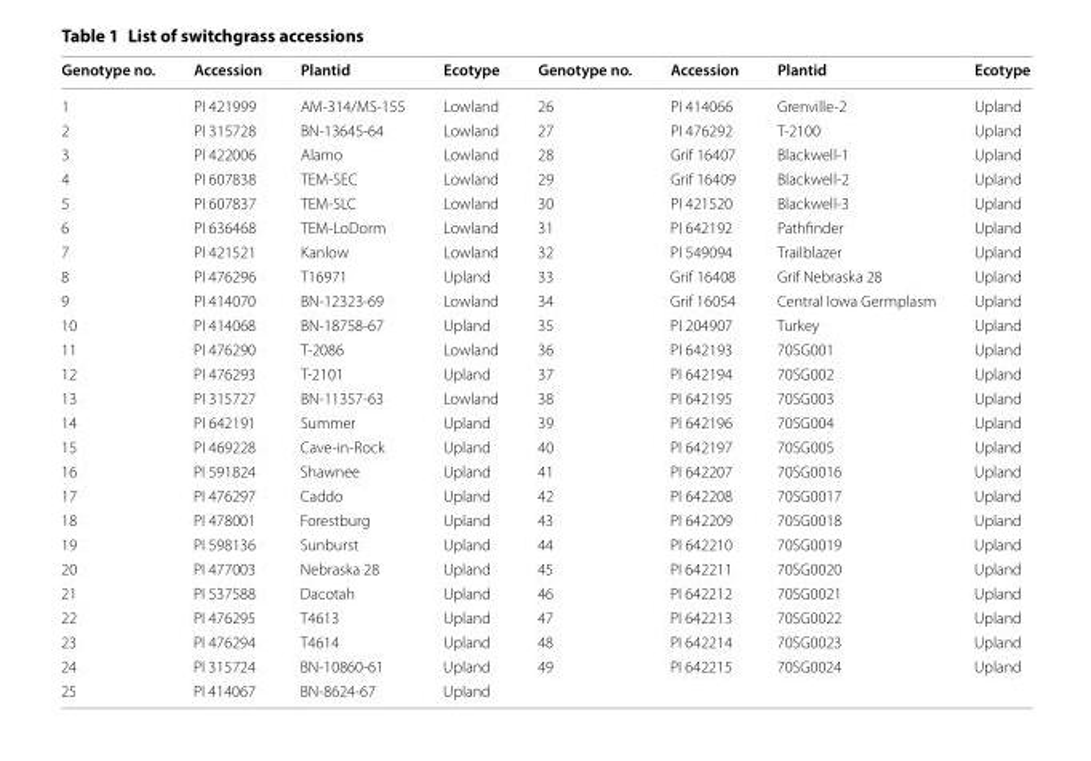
<table><thead><tr><td>Genotype no.</td><td>Accession</td><td>Plantid</td><td>Ecotype</td><td>Genotype no.</td><td>Accession</td><td>Plantid</td><td>Ecotype</td></tr></thead><tbody><tr><td>1</td><td>PI 421999</td><td>AM-314/MS-155</td><td>Lowland</td><td>26</td><td>PI 414066</td><td>Grenville-2</td><td>Upland</td></tr><tr><td>2</td><td>PI 315728</td><td>BN-13645-64</td><td>Lowland</td><td>27</td><td>PI 476292</td><td>T-2100</td><td>Upland</td></tr><tr><td>3</td><td>PI 422006</td><td>Alamo</td><td>Lowland</td><td>28</td><td>Grif 16407</td><td>Blackwell-1</td><td>Upland</td></tr><tr><td>4</td><td>PI 607838</td><td>TEM-SEC</td><td>Lowland</td><td>29</td><td>Grif 16409</td><td>Blackwell-2</td><td>Upland</td></tr><tr><td>5</td><td>PI 607837</td><td>TEM-SLC</td><td>Lowland</td><td>30</td><td>PI 421520</td><td>Blackwell-3</td><td>Upland</td></tr><tr><td>6</td><td>PI 636468</td><td>TEM-LoDorm</td><td>Lowland</td><td>31</td><td>PI 642192</td><td>Pathfinder</td><td>Upland</td></tr><tr><td>7</td><td>PI 421521</td><td>Kanlow</td><td>Lowland</td><td>32</td><td>PI 549094</td><td>Trailblazer</td><td>Upland</td></tr><tr><td>8</td><td>PI 476296</td><td>T16971</td><td>Upland</td><td>33</td><td>Grif 16408</td><td>Grif Nebraska 28</td><td>Upland</td></tr><tr><td>9</td><td>PI 414070</td><td>BN-12323-69</td><td>Lowland</td><td>34</td><td>Grif 16054</td><td>Central Iowa Germplasm</td><td>Upland</td></tr><tr><td>10</td><td>PI 414068</td><td>BN-18758-67</td><td>Upland</td><td>35</td><td>PI 204907</td><td>Turkey</td><td>Upland</td></tr><tr><td>11</td><td>PI 476290</td><td>T-2086</td><td>Lowland</td><td>36</td><td>PI 642193</td><td>70SG001</td><td>Upland</td></tr><tr><td>12</td><td>PI 476293</td><td>T-2101</td><td>Upland</td><td>37</td><td>PI 642194</td><td>70SG002</td><td>Upland</td></tr><tr><td>13</td><td>PI 315727</td><td>BN-11357-63</td><td>Lowland</td><td>38</td><td>PI 642195</td><td>70SG003</td><td>Upland</td></tr><tr><td>14</td><td>PI 642191</td><td>Summer</td><td>Upland</td><td>39</td><td>PI 642196</td><td>70SG004</td><td>Upland</td></tr><tr><td>15</td><td>PI 469228</td><td>Cave-in-Rock</td><td>Upland</td><td>40</td><td>PI 642197</td><td>70SG005</td><td>Upland</td></tr><tr><td>16</td><td>PI 591824</td><td>Shawnee</td><td>Upland</td><td>41</td><td>PI 642207</td><td>70SG0016</td><td>Upland</td></tr><tr><td>17</td><td>PI 476297</td><td>Caddo</td><td>Upland</td><td>42</td><td>PI 642208</td><td>70SG0017</td><td>Upland</td></tr><tr><td>18</td><td>PI 478001</td><td>Forestburg</td><td>Upland</td><td>43</td><td>PI 642209</td><td>70SG0018</td><td>Upland</td></tr><tr><td>19</td><td>PI 598136</td><td>Sunburst</td><td>Upland</td><td>44</td><td>PI 642210</td><td>70SG0019</td><td>Upland</td></tr><tr><td>20</td><td>PI 477003</td><td>Nebraska 28</td><td>Upland</td><td>45</td><td>PI 642211</td><td>70SG0020</td><td>Upland</td></tr><tr><td>21</td><td>PI 537588</td><td>Dacotah</td><td>Upland</td><td>46</td><td>PI 642212</td><td>70SG0021</td><td>Upland</td></tr><tr><td>22</td><td>PI 476295</td><td>T4613</td><td>Upland</td><td>47</td><td>PI 642213</td><td>70SG0022</td><td>Upland</td></tr><tr><td>23</td><td>PI 476294</td><td>T4614</td><td>Upland</td><td>48</td><td>PI 642214</td><td>70SG0023</td><td>Upland</td></tr><tr><td>24</td><td>PI 315724</td><td>BN-10860-61</td><td>Upland</td><td>49</td><td>PI 642215</td><td>70SG0024</td><td>Upland</td></tr><tr><td>25</td><td>PI 414067</td><td>BN-8624-67</td><td>Upland</td><td></td><td></td><td></td><td></td></tr></tbody></table>